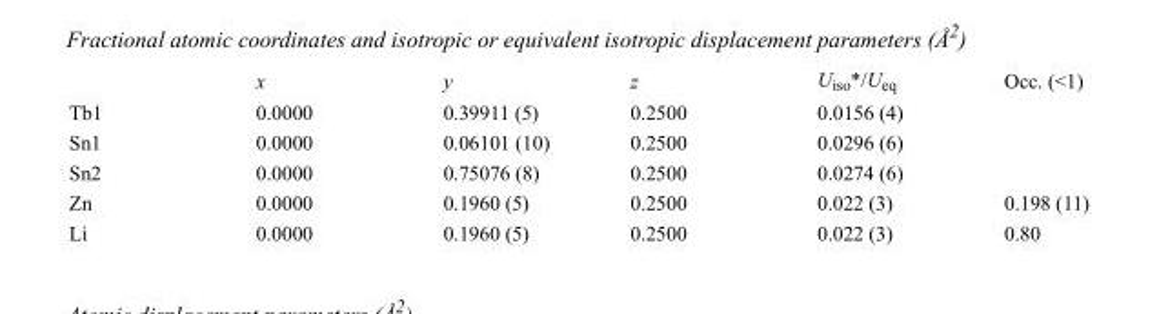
<table><thead><tr><td></td><td>x</td><td>y</td><td>z</td><td>U<sub>iso</sub>*/U<sub>eq</sub></td><td>Occ. (&lt;1)</td></tr></thead><tbody><tr><td>Tb1</td><td>0.0000</td><td>0.39911 (5)</td><td>0.2500</td><td>0.0156 (4)</td><td></td></tr><tr><td>Sn1</td><td>0.0000</td><td>0.06101 (10)</td><td>0.2500</td><td>0.0296 (6)</td><td></td></tr><tr><td>Sn2</td><td>0.0000</td><td>0.75076 (8)</td><td>0.2500</td><td>0.0274 (6)</td><td></td></tr><tr><td>Zn</td><td>0.0000</td><td>0.1960 (5)</td><td>0.2500</td><td>0.022 (3)</td><td>0.198 (11)</td></tr><tr><td>Li</td><td>0.0000</td><td>0.1960 (5)</td><td>0.2500</td><td>0.022 (3)</td><td>0.80</td></tr></tbody></table>